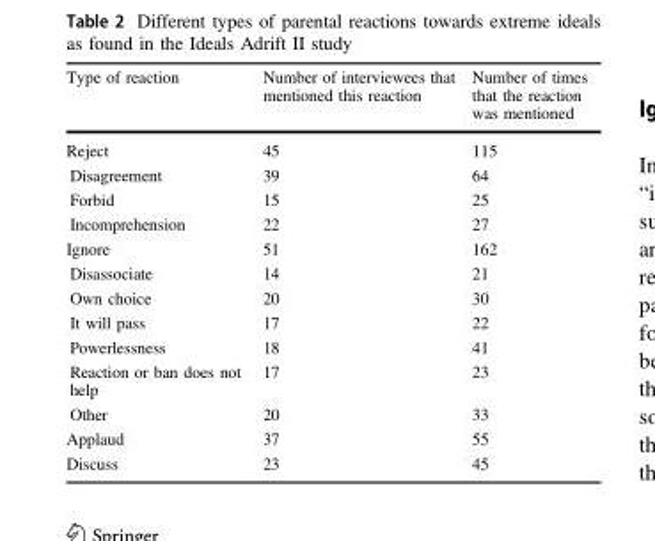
<table><thead><tr><td>Type of reaction</td><td>Number of interviewees that mentioned this reaction</td><td>Number of times that the reaction was mentioned</td></tr></thead><tbody><tr><td>Reject</td><td>45</td><td>115</td></tr><tr><td>Disagreement</td><td>39</td><td>64</td></tr><tr><td>Forbid</td><td>15</td><td>25</td></tr><tr><td>Incomprehension</td><td>22</td><td>27</td></tr><tr><td>Ignore</td><td>51</td><td>162</td></tr><tr><td>Disassociate</td><td>14</td><td>21</td></tr><tr><td>Own choice</td><td>20</td><td>30</td></tr><tr><td>It will pass</td><td>17</td><td>22</td></tr><tr><td>Powerlessness</td><td>18</td><td>41</td></tr><tr><td>Reaction or ban does not help</td><td>17</td><td>23</td></tr><tr><td>Other</td><td>20</td><td>33</td></tr><tr><td>Applaud</td><td>37</td><td>55</td></tr><tr><td>Discuss</td><td>23</td><td>45</td></tr></tbody></table>